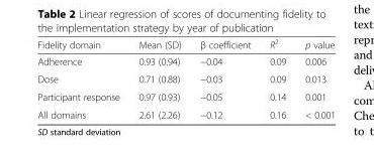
<table><thead><tr><td>Fidelity domain</td><td>Mean (SD)</td><td>β coefficient</td><td>R<sup>2</sup></td><td>p value</td></tr></thead><tbody><tr><td>Adherence</td><td>0.93 (0.94)</td><td>−0.04</td><td>0.09</td><td>0.006</td></tr><tr><td>Dose</td><td>0.71 (0.88)</td><td>−0.03</td><td>0.09</td><td>0.013</td></tr><tr><td>Participant response</td><td>0.97 (0.93)</td><td>−0.05</td><td>0.14</td><td>0.001</td></tr><tr><td>All domains</td><td>2.61 (2.26)</td><td>−0.12</td><td>0.16</td><td>&lt; 0.001</td></tr></tbody></table>